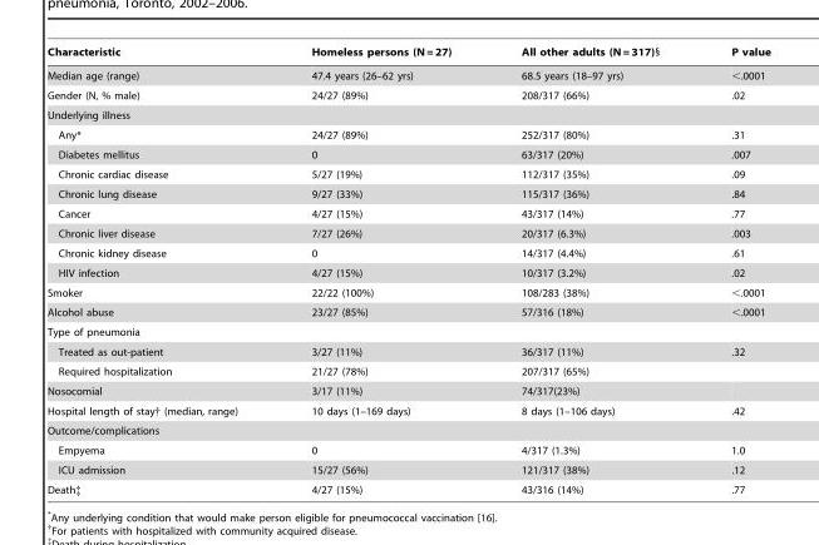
<table><thead><tr><td>Characteristic</td><td>Homeless persons (N = 27)</td><td>All other adults (N = 317)§</td><td>P value</td></tr></thead><tbody><tr><td>Median age (range)</td><td>47.4 years (26–62 yrs)</td><td>68.5 years (18–97 yrs)</td><td>&lt;.0001</td></tr><tr><td>Gender (N, % male)</td><td>24/27 (89%)</td><td>208/317 (66%)</td><td>.02</td></tr><tr><td colspan="4">Underlying illness</td></tr><tr><td>Any*</td><td>24/27 (89%)</td><td>252/317 (80%)</td><td>.31</td></tr><tr><td>Diabetes mellitus</td><td>0</td><td>63/317 (20%)</td><td>.007</td></tr><tr><td>Chronic cardiac disease</td><td>5/27 (19%)</td><td>112/317 (35%)</td><td>.09</td></tr><tr><td>Chronic lung disease</td><td>9/27 (33%)</td><td>115/317 (36%)</td><td>.84</td></tr><tr><td>Cancer</td><td>4/27 (15%)</td><td>43/317 (14%)</td><td>.77</td></tr><tr><td>Chronic liver disease</td><td>7/27 (26%)</td><td>20/317 (6.3%)</td><td>.003</td></tr><tr><td>Chronic kidney disease</td><td>0</td><td>14/317 (4.4%)</td><td>.61</td></tr><tr><td>HIV infection</td><td>4/27 (15%)</td><td>10/317 (3.2%)</td><td>.02</td></tr><tr><td>Smoker</td><td>22/22 (100%)</td><td>108/283 (38%)</td><td>&lt;.0001</td></tr><tr><td>Alcohol abuse</td><td>23/27 (85%)</td><td>57/316 (18%)</td><td>&lt;.0001</td></tr><tr><td colspan="4">Type of pneumonia</td></tr><tr><td>Treated as out-patient</td><td>3/27 (11%)</td><td>36/317 (11%)</td><td>.32</td></tr><tr><td>Required hospitalization</td><td>21/27 (78%)</td><td>207/317 (65%)</td><td></td></tr><tr><td>Nosocomial</td><td>3/17 (11%)</td><td>74/317(23%)</td><td></td></tr><tr><td>Hospital length of stay† (median, range)</td><td>10 days (1–169 days)</td><td>8 days (1–106 days)</td><td>.42</td></tr><tr><td colspan="4">Outcome/complications</td></tr><tr><td>Empyema</td><td>0</td><td>4/317 (1.3%)</td><td>1.0</td></tr><tr><td>ICU admission</td><td>15/27 (56%)</td><td>121/317 (38%)</td><td>.12</td></tr><tr><td>Death‡</td><td>4/27 (15%)</td><td>43/316 (14%)</td><td>.77</td></tr></tbody></table>